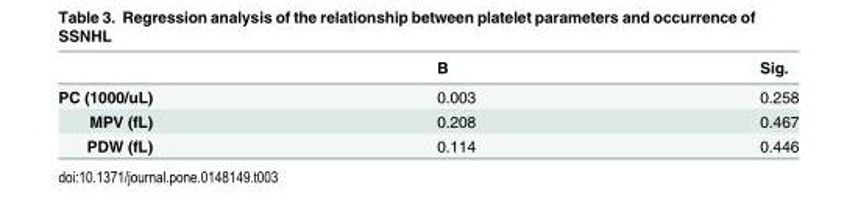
<table><thead><tr><td></td><td>B</td><td>Sig.</td></tr></thead><tbody><tr><td>PC (1000/uL)</td><td>0.003</td><td>0.258</td></tr><tr><td>MPV (fL)</td><td>0.208</td><td>0.467</td></tr><tr><td>PDW (fL)</td><td>0.114</td><td>0.446</td></tr></tbody></table>